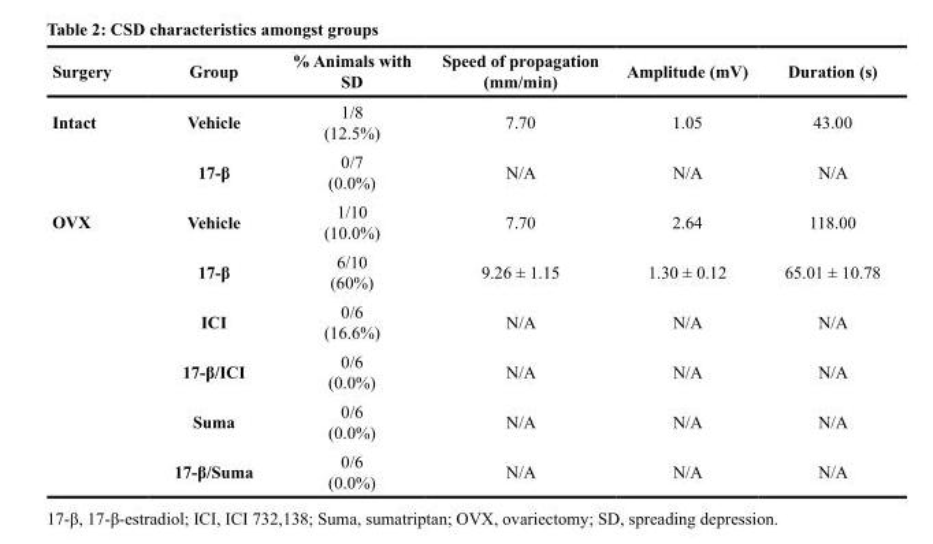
<table><thead><tr><td>Surgery</td><td>Group</td><td>% Animals with SD</td><td>Speed of propagation (mm/min)</td><td>Amplitude (mV)</td><td>Duration (s)</td></tr></thead><tbody><tr><td rowspan="2">Intact</td><td>Vehicle</td><td>1/8 (12.5%)</td><td>7.70</td><td>1.05</td><td>43.00</td></tr><tr><td>17-β</td><td>0/7 (0.0%)</td><td>N/A</td><td>N/A</td><td>N/A</td></tr><tr><td rowspan="6">OVX</td><td>Vehicle</td><td>1/10 (10.0%)</td><td>7.70</td><td>2.64</td><td>118.00</td></tr><tr><td>17-β</td><td>6/10 (60%)</td><td>9.26 ± 1.15</td><td>1.30 ± 0.12</td><td>65.01 ± 10.78</td></tr><tr><td>ICI</td><td>0/6 (16.6%)</td><td>N/A</td><td>N/A</td><td>N/A</td></tr><tr><td>17-β/ICI</td><td>0/6 (0.0%)</td><td>N/A</td><td>N/A</td><td>N/A</td></tr><tr><td>Suma</td><td>0/6 (0.0%)</td><td>N/A</td><td>N/A</td><td>N/A</td></tr><tr><td>17-β/Suma</td><td>0/6 (0.0%)</td><td>N/A</td><td>N/A</td><td>N/A</td></tr></tbody></table>